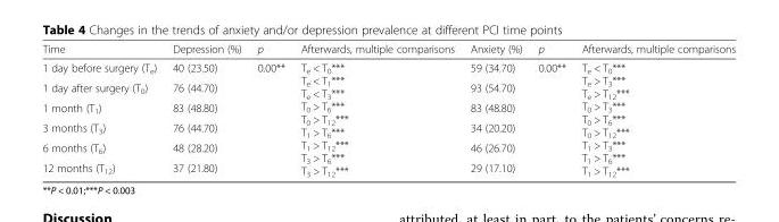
<table><thead><tr><td>Time</td><td>Depression (%)</td><td>p</td><td>Afterwards, multiple comparisons</td><td>Anxiety (%)</td><td>p</td><td>Afterwards, multiple comparisons</td></tr></thead><tbody><tr><td>1 day before surgery (T<sub>e</sub>)</td><td>40 (23.50)</td><td rowspan="6">0.00**</td><td rowspan="6">Te &lt; T0*** Te &lt; T1*** Te &lt; T3*** T0 &gt; T6*** T0 &gt; T12*** T1 &gt; T6*** T1 &gt; T12*** T3 &gt; T6*** T3 &gt; T12***</td><td>59 (34.70)</td><td rowspan="6">0.00**</td><td rowspan="6">Te &lt; T0*** Te &gt; T3*** Te &gt; T12*** T0 &gt; T3*** T0 &gt; T6*** T0 &gt; T12*** T1 &gt; T3*** T1 &gt; T6*** T1 &gt; T12***</td></tr><tr><td>1 day after surgery (T<sub>0</sub>)</td><td>76 (44.70)</td><td>93 (54.70)</td></tr><tr><td>1 month (T<sub>1</sub>)</td><td>83 (48.80)</td><td>83 (48.80)</td></tr><tr><td>3 months (T<sub>3</sub>)</td><td>76 (44.70)</td><td>34 (20.20)</td></tr><tr><td>6 months (T<sub>6</sub>)</td><td>48 (28.20)</td><td>46 (26.70)</td></tr><tr><td>12 months (T<sub>12</sub>)</td><td>37 (21.80)</td><td>29 (17.10)</td></tr></tbody></table>